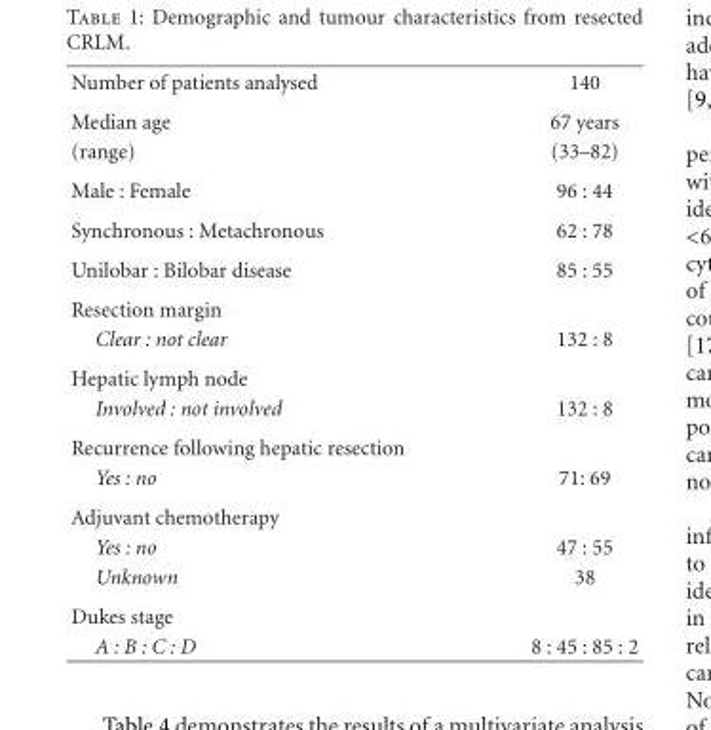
<table><tbody><tr><td>Number of patients analysed</td><td>140</td></tr><tr><td>Median age</td><td>67 years</td></tr><tr><td>(range)</td><td>(33–82)</td></tr><tr><td>Male : Female</td><td>96 : 44</td></tr><tr><td>Synchronous : Metachronous</td><td>62 : 78</td></tr><tr><td>Unilobar : Bilobar disease</td><td>85 : 55</td></tr><tr><td colspan="2">Resection margin</td></tr><tr><td>Clear : not clear</td><td>132 : 8</td></tr><tr><td colspan="2">Hepatic lymph node</td></tr><tr><td>Involved : not involved</td><td>132 : 8</td></tr><tr><td colspan="2">Recurrence following hepatic resection</td></tr><tr><td>Yes : no</td><td>71: 69</td></tr><tr><td colspan="2">Adjuvant chemotherapy</td></tr><tr><td>Yes : no</td><td>47 : 55</td></tr><tr><td>Unknown</td><td>38</td></tr><tr><td colspan="2">Dukes stage</td></tr><tr><td>A : B : C : D</td><td>8 : 45 : 85 : 2</td></tr></tbody></table>